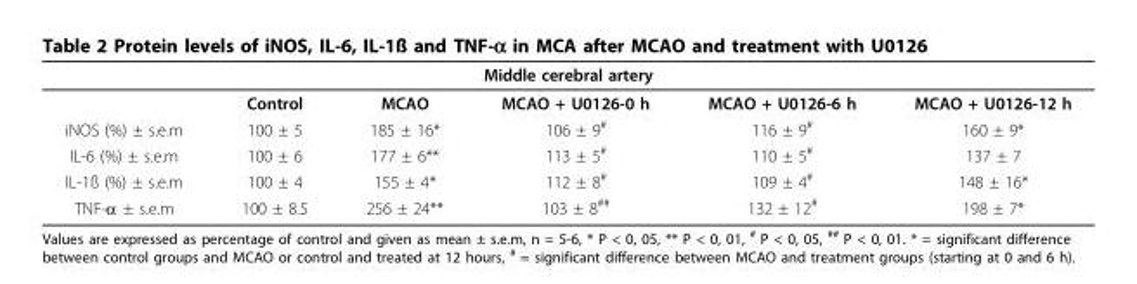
<table><thead><tr><td colspan="6">Middle cerebral artery</td></tr><tr><td></td><td>Control</td><td>MCAO</td><td>MCAO + U0126-0 h</td><td>MCAO + U0126-6 h</td><td>MCAO + U0126-12 h</td></tr></thead><tbody><tr><td>iNOS (%) ± s.e.m</td><td>100 ± 5</td><td>185 ± 16*</td><td>106 ± 9<sup>#</sup></td><td>116 ± 9<sup>#</sup></td><td>160 ± 9*</td></tr><tr><td>IL-6 (%) ± s.e.m</td><td>100 ± 6</td><td>177 ± 6**</td><td>113 ± 5<sup>#</sup></td><td>110 ± 5<sup>#</sup></td><td>137 ± 7</td></tr><tr><td>IL-1ß (%) ± s.e.m</td><td>100 ± 4</td><td>155 ± 4*</td><td>112 ± 8<sup>#</sup></td><td>109 ± 4<sup>#</sup></td><td>148 ± 16*</td></tr><tr><td>TNF-α ± s.e.m</td><td>100 ± 8.5</td><td>256 ± 24**</td><td>103 ± 8<sup>##</sup></td><td>132 ± 12<sup>#</sup></td><td>198 ± 7*</td></tr></tbody></table>